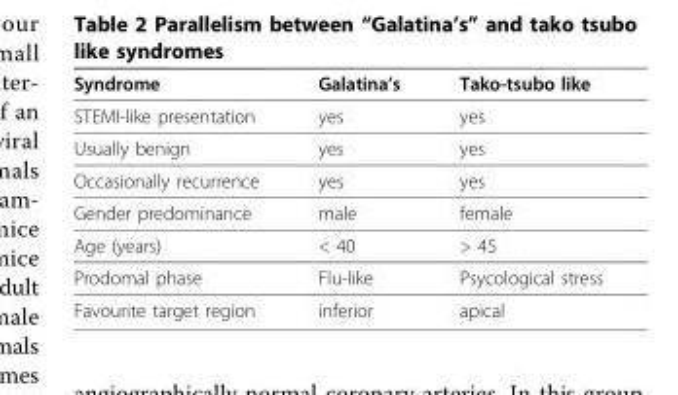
<table><thead><tr><td>Syndrome</td><td>Galatina’s</td><td>Tako-tsubo like</td></tr></thead><tbody><tr><td>STEMI-like presentation</td><td>yes</td><td>yes</td></tr><tr><td>Usually benign</td><td>yes</td><td>yes</td></tr><tr><td>Occasionally recurrence</td><td>yes</td><td>yes</td></tr><tr><td>Gender predominance</td><td>male</td><td>female</td></tr><tr><td>Age (years)</td><td>&lt; 40</td><td>&gt; 45</td></tr><tr><td>Prodomal phase</td><td>Flu-like</td><td>Psycological stress</td></tr><tr><td>Favourite target region</td><td>inferior</td><td>apical</td></tr></tbody></table>